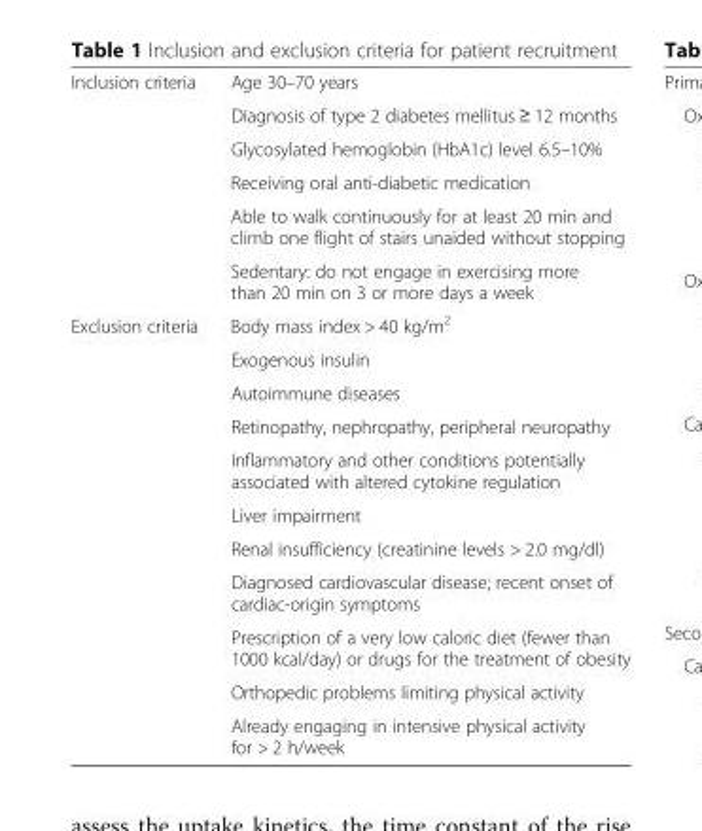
<table><tbody><tr><td rowspan="6">Inclusion criteria</td><td>Age 30–70 years</td></tr><tr><td>Diagnosis of type 2 diabetes mellitus ≥ 12 months</td></tr><tr><td>Glycosylated hemoglobin (HbA1c) level 6.5–10%</td></tr><tr><td>Receiving oral anti-diabetic medication</td></tr><tr><td>Able to walk continuously for at least 20 min and climb one flight of stairs unaided without stopping</td></tr><tr><td>Sedentary: do not engage in exercising more than 20 min on 3 or more days a week</td></tr><tr><td rowspan="11">Exclusion criteria</td><td>Body mass index &gt; 40 kg/m<sup>2</sup></td></tr><tr><td>Exogenous insulin</td></tr><tr><td>Autoimmune diseases</td></tr><tr><td>Retinopathy, nephropathy, peripheral neuropathy</td></tr><tr><td>Inflammatory and other conditions potentially associated with altered cytokine regulation</td></tr><tr><td>Liver impairment</td></tr><tr><td>Renal insufficiency (creatinine levels &gt; 2.0 mg/dl)</td></tr><tr><td>Diagnosed cardiovascular disease; recent onset of cardiac-origin symptoms</td></tr><tr><td>Prescription of a very low caloric diet (fewer than 1000 kcal/day) or drugs for the treatment of obesity</td></tr><tr><td>Orthopedic problems limiting physical activity</td></tr><tr><td>Already engaging in intensive physical activity for &gt; 2 h/week</td></tr></tbody></table>